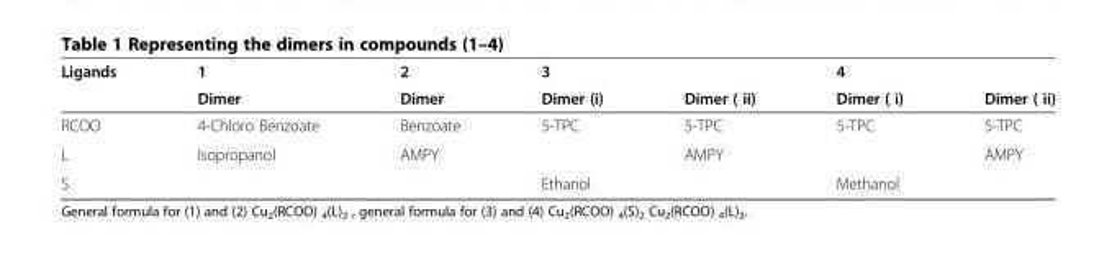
<table><thead><tr><td rowspan="2">Ligands</td><td rowspan="2">1 Dimer</td><td rowspan="2">2 Dimer</td><td rowspan="2">3 Dimer (i)</td><td rowspan="2">Dimer ( ii)</td><td rowspan="2">4 Dimer ( i)</td><td rowspan="2">Dimer ( ii)</td></tr><tr></tr></thead><tbody><tr><td>RCOO</td><td>4-Chloro Benzoate</td><td>Benzoate</td><td>5-TPC</td><td>5-TPC</td><td>5-TPC</td><td>5-TPC</td></tr><tr><td>L</td><td>Isopropanol</td><td>AMPY</td><td></td><td>AMPY</td><td></td><td>AMPY</td></tr><tr><td>S</td><td></td><td></td><td>Ethanol</td><td></td><td>Methanol</td><td></td></tr></tbody></table>